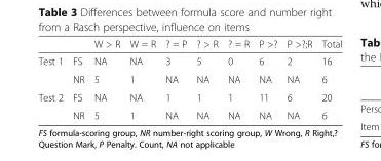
<table><thead><tr><td></td><td></td><td>W &gt; R</td><td>W = R</td><td>? = P</td><td>? &gt; R</td><td>? = R</td><td>P &gt;?</td><td>P &gt;?;R</td><td>Total</td></tr></thead><tbody><tr><td rowspan="2">Test 1</td><td>FS</td><td>NA</td><td>NA</td><td>3</td><td>5</td><td>0</td><td>6</td><td>2</td><td>16</td></tr><tr><td>NR</td><td>5</td><td>1</td><td>NA</td><td>NA</td><td>NA</td><td>NA</td><td>NA</td><td>6</td></tr><tr><td rowspan="2">Test 2</td><td>FS</td><td>NA</td><td>NA</td><td>1</td><td>1</td><td>1</td><td>11</td><td>6</td><td>20</td></tr><tr><td>NR</td><td>5</td><td>1</td><td>NA</td><td>NA</td><td>NA</td><td>NA</td><td>NA</td><td>6</td></tr></tbody></table>